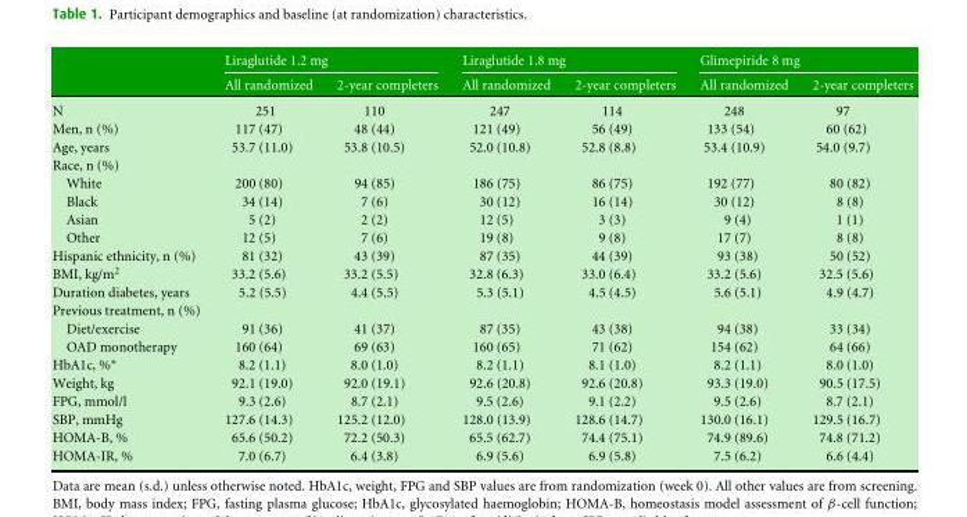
<table><thead><tr><td rowspan="2"></td><td colspan="2">Liraglutide 1.2 mg</td><td colspan="2">Liraglutide 1.8 mg</td><td colspan="2">Glimepiride 8 mg</td></tr><tr><td>All randomized</td><td>2-year completers</td><td>All randomized</td><td>2-year completers</td><td>All randomized</td><td>2-year completers</td></tr></thead><tbody><tr><td>N</td><td>251</td><td>110</td><td>247</td><td>114</td><td>248</td><td>97</td></tr><tr><td>Men, n (%)</td><td>117 (47)</td><td>48 (44)</td><td>121 (49)</td><td>56 (49)</td><td>133 (54)</td><td>60 (62)</td></tr><tr><td>Age, years</td><td>53.7 (11.0)</td><td>53.8 (10.5)</td><td>52.0 (10.8)</td><td>52.8 (8.8)</td><td>53.4 (10.9)</td><td>54.0 (9.7)</td></tr><tr><td colspan="7">Race, n (%)</td></tr><tr><td>White</td><td>200 (80)</td><td>94 (85)</td><td>186 (75)</td><td>86 (75)</td><td>192 (77)</td><td>80 (82)</td></tr><tr><td>Black</td><td>34 (14)</td><td>7 (6)</td><td>30 (12)</td><td>16 (14)</td><td>30 (12)</td><td>8 (8)</td></tr><tr><td>Asian</td><td>5 (2)</td><td>2 (2)</td><td>12 (5)</td><td>3 (3)</td><td>9 (4)</td><td>1 (1)</td></tr><tr><td>Other</td><td>12 (5)</td><td>7 (6)</td><td>19 (8)</td><td>9 (8)</td><td>17 (7)</td><td>8 (8)</td></tr><tr><td>Hispanic ethnicity, n (%)</td><td>81 (32)</td><td>43 (39)</td><td>87 (35)</td><td>44 (39)</td><td>93 (38)</td><td>50 (52)</td></tr><tr><td>BMI, kg/m<sup>2</sup></td><td>33.2 (5.6)</td><td>33.2 (5.5)</td><td>32.8 (6.3)</td><td>33.0 (6.4)</td><td>33.2 (5.6)</td><td>32.5 (5.6)</td></tr><tr><td>Duration diabetes, years</td><td>5.2 (5.5)</td><td>4.4 (5.5)</td><td>5.3 (5.1)</td><td>4.5 (4.5)</td><td>5.6 (5.1)</td><td>4.9 (4.7)</td></tr><tr><td colspan="7">Previous treatment, n (%)</td></tr><tr><td>Diet/exercise</td><td>91 (36)</td><td>41 (37)</td><td>87 (35)</td><td>43 (38)</td><td>94 (38)</td><td>33 (34)</td></tr><tr><td>OAD monotherapy</td><td>160 (64)</td><td>69 (63)</td><td>160 (65)</td><td>71 (62)</td><td>154 (62)</td><td>64 (66)</td></tr><tr><td>HbA1c, %∗</td><td>8.2 (1.1)</td><td>8.0 (1.0)</td><td>8.2 (1.1)</td><td>8.1 (1.0)</td><td>8.2 (1.1)</td><td>8.0 (1.0)</td></tr><tr><td>Weight, kg</td><td>92.1 (19.0)</td><td>92.0 (19.1)</td><td>92.6 (20.8)</td><td>92.6 (20.8)</td><td>93.3 (19.0)</td><td>90.5 (17.5)</td></tr><tr><td>FPG, mmol/l</td><td>9.3 (2.6)</td><td>8.7 (2.1)</td><td>9.5 (2.6)</td><td>9.1 (2.2)</td><td>9.5 (2.6)</td><td>8.7 (2.1)</td></tr><tr><td>SBP, mmHg</td><td>127.6 (14.3)</td><td>125.2 (12.0)</td><td>128.0 (13.9)</td><td>128.6 (14.7)</td><td>130.0 (16.1)</td><td>129.5 (16.7)</td></tr><tr><td>HOMA-B, %</td><td>65.6 (50.2)</td><td>72.2 (50.3)</td><td>65.5 (62.7)</td><td>74.4 (75.1)</td><td>74.9 (89.6)</td><td>74.8 (71.2)</td></tr><tr><td>HOMA-IR, %</td><td>7.0 (6.7)</td><td>6.4 (3.8)</td><td>6.9 (5.6)</td><td>6.9 (5.8)</td><td>7.5 (6.2)</td><td>6.6 (4.4)</td></tr></tbody></table>